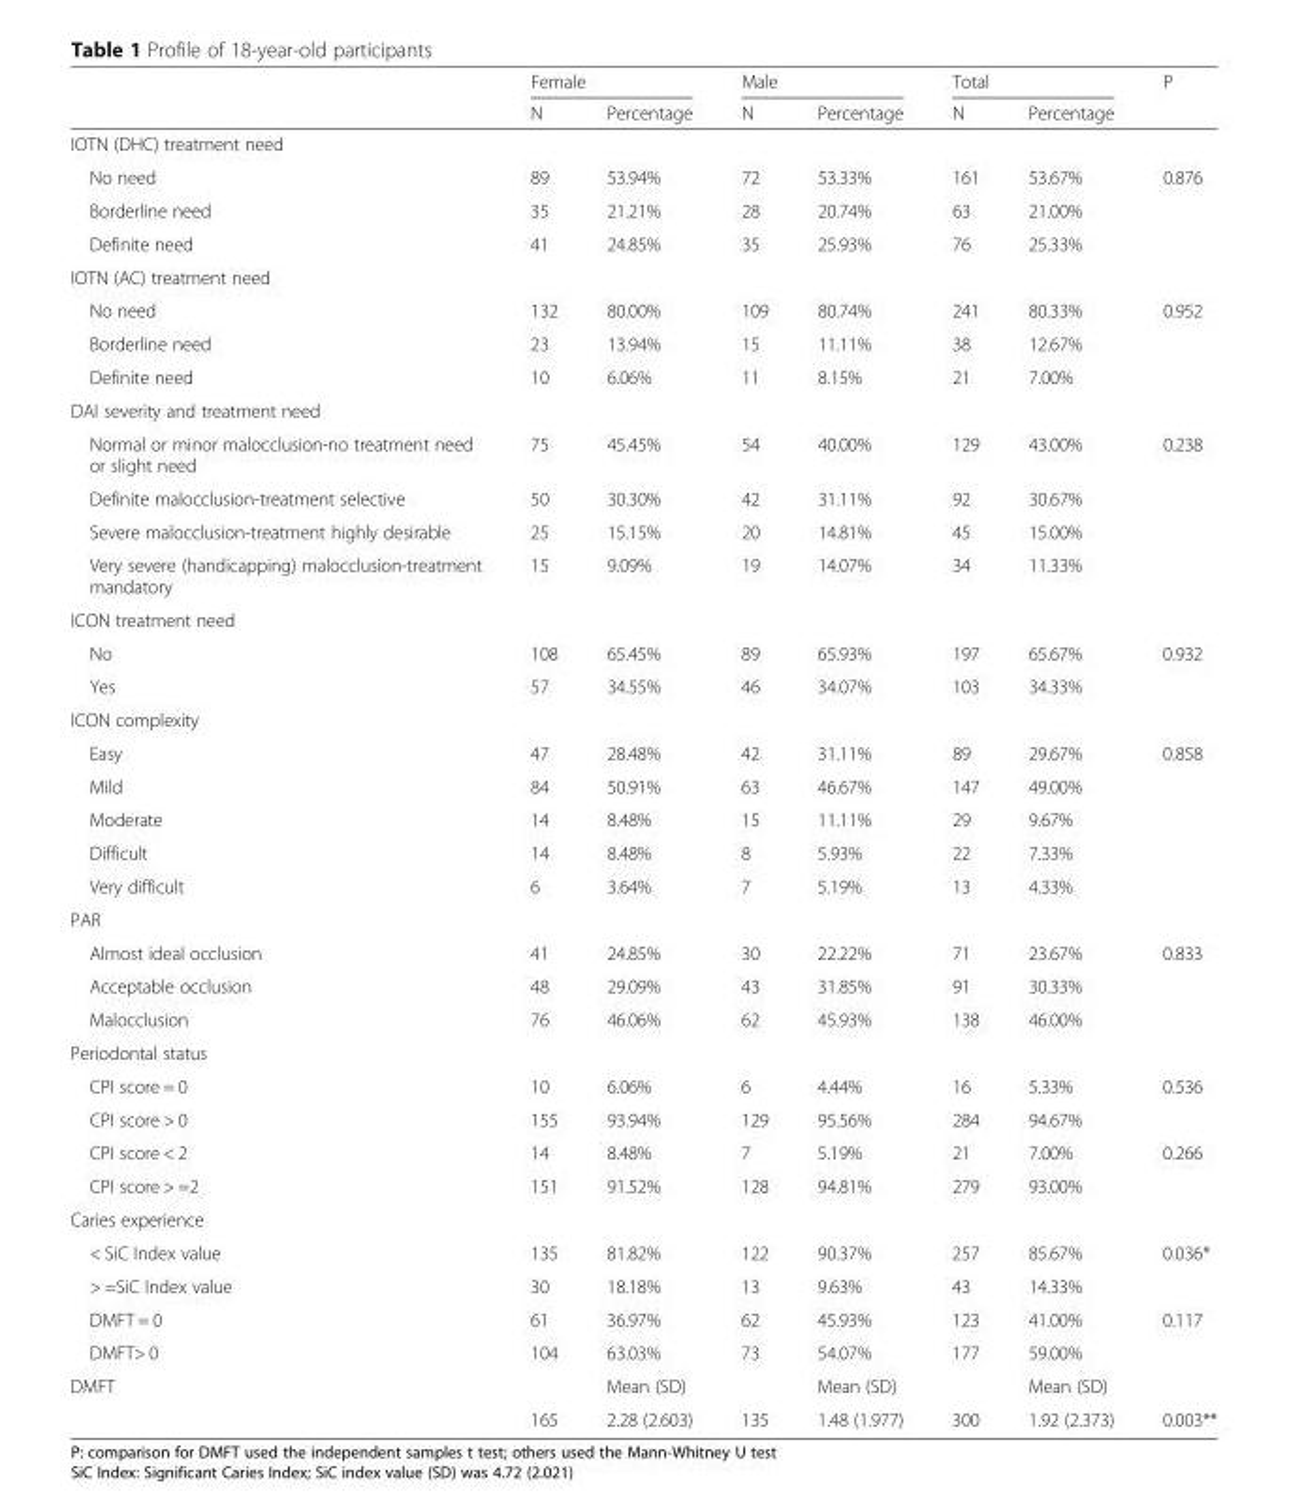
<table><thead><tr><td rowspan="2"></td><td colspan="2">Female</td><td colspan="2">Male</td><td colspan="2">Total</td><td rowspan="2">P</td></tr><tr><td>N</td><td>Percentage</td><td>N</td><td>Percentage</td><td>N</td><td>Percentage</td></tr></thead><tbody><tr><td colspan="8">IOTN (DHC) treatment need</td></tr><tr><td>No need</td><td>89</td><td>53.94%</td><td>72</td><td>53.33%</td><td>161</td><td>53.67%</td><td rowspan="3">0.876</td></tr><tr><td>Borderline need</td><td>35</td><td>21.21%</td><td>28</td><td>20.74%</td><td>63</td><td>21.00%</td></tr><tr><td>Definite need</td><td>41</td><td>24.85%</td><td>35</td><td>25.93%</td><td>76</td><td>25.33%</td></tr><tr><td colspan="8">IOTN (AC) treatment need</td></tr><tr><td>No need</td><td>132</td><td>80.00%</td><td>109</td><td>80.74%</td><td>241</td><td>80.33%</td><td rowspan="3">0.952</td></tr><tr><td>Borderline need</td><td>23</td><td>13.94%</td><td>15</td><td>11.11%</td><td>38</td><td>12.67%</td></tr><tr><td>Definite need</td><td>10</td><td>6.06%</td><td>11</td><td>8.15%</td><td>21</td><td>7.00%</td></tr><tr><td colspan="8">DAI severity and treatment need</td></tr><tr><td>Normal or minor malocclusion-no treatment need or slight need</td><td>75</td><td>45.45%</td><td>54</td><td>40.00%</td><td>129</td><td>43.00%</td><td rowspan="4">0.238</td></tr><tr><td>Definite malocclusion-treatment selective</td><td>50</td><td>30.30%</td><td>42</td><td>31.11%</td><td>92</td><td>30.67%</td></tr><tr><td>Severe malocclusion-treatment highly desirable</td><td>25</td><td>15.15%</td><td>20</td><td>14.81%</td><td>45</td><td>15.00%</td></tr><tr><td>Very severe (handicapping) malocclusion-treatment mandatory</td><td>15</td><td>9.09%</td><td>19</td><td>14.07%</td><td>34</td><td>11.33%</td></tr><tr><td colspan="8">ICON treatment need</td></tr><tr><td>No</td><td>108</td><td>65.45%</td><td>89</td><td>65.93%</td><td>197</td><td>65.67%</td><td rowspan="2">0.932</td></tr><tr><td>Yes</td><td>57</td><td>34.55%</td><td>46</td><td>34.07%</td><td>103</td><td>34.33%</td></tr><tr><td colspan="8">ICON complexity</td></tr><tr><td>Easy</td><td>47</td><td>28.48%</td><td>42</td><td>31.11%</td><td>89</td><td>29.67%</td><td rowspan="5">0.858</td></tr><tr><td>Mild</td><td>84</td><td>50.91%</td><td>63</td><td>46.67%</td><td>147</td><td>49.00%</td></tr><tr><td>Moderate</td><td>14</td><td>8.48%</td><td>15</td><td>11.11%</td><td>29</td><td>9.67%</td></tr><tr><td>Difficult</td><td>14</td><td>8.48%</td><td>8</td><td>5.93%</td><td>22</td><td>7.33%</td></tr><tr><td>Very difficult</td><td>6</td><td>3.64%</td><td>7</td><td>5.19%</td><td>13</td><td>4.33%</td></tr><tr><td colspan="8">PAR</td></tr><tr><td>Almost ideal occlusion</td><td>41</td><td>24.85%</td><td>30</td><td>22.22%</td><td>71</td><td>23.67%</td><td rowspan="3">0.833</td></tr><tr><td>Acceptable occlusion</td><td>48</td><td>29.09%</td><td>43</td><td>31.85%</td><td>91</td><td>30.33%</td></tr><tr><td>Malocclusion</td><td>76</td><td>46.06%</td><td>62</td><td>45.93%</td><td>138</td><td>46.00%</td></tr><tr><td colspan="8">Periodontal status</td></tr><tr><td>CPI score = 0</td><td>10</td><td>6.06%</td><td>6</td><td>4.44%</td><td>16</td><td>5.33%</td><td rowspan="2">0.536</td></tr><tr><td>CPI score &gt; 0</td><td>155</td><td>93.94%</td><td>129</td><td>95.56%</td><td>284</td><td>94.67%</td></tr><tr><td>CPI score &lt; 2</td><td>14</td><td>8.48%</td><td>7</td><td>5.19%</td><td>21</td><td>7.00%</td><td rowspan="2">0.266</td></tr><tr><td>CPI score &gt; =2</td><td>151</td><td>91.52%</td><td>128</td><td>94.81%</td><td>279</td><td>93.00%</td></tr><tr><td colspan="8">Caries experience</td></tr><tr><td>&lt; SiC Index value</td><td>135</td><td>81.82%</td><td>122</td><td>90.37%</td><td>257</td><td>85.67%</td><td rowspan="2">0.036*</td></tr><tr><td>&gt; =SiC Index value</td><td>30</td><td>18.18%</td><td>13</td><td>9.63%</td><td>43</td><td>14.33%</td></tr><tr><td>DMFT = 0</td><td>61</td><td>36.97%</td><td>62</td><td>45.93%</td><td>123</td><td>41.00%</td><td rowspan="2">0.117</td></tr><tr><td>DMFT&gt; 0</td><td>104</td><td>63.03%</td><td>73</td><td>54.07%</td><td>177</td><td>59.00%</td></tr><tr><td rowspan="2">DMFT</td><td></td><td>Mean (SD)</td><td></td><td>Mean (SD)</td><td></td><td>Mean (SD)</td><td></td></tr><tr><td>165</td><td>2.28 (2.603)</td><td>135</td><td>1.48 (1.977)</td><td>300</td><td>1.92 (2.373)</td><td>0.003**</td></tr></tbody></table>